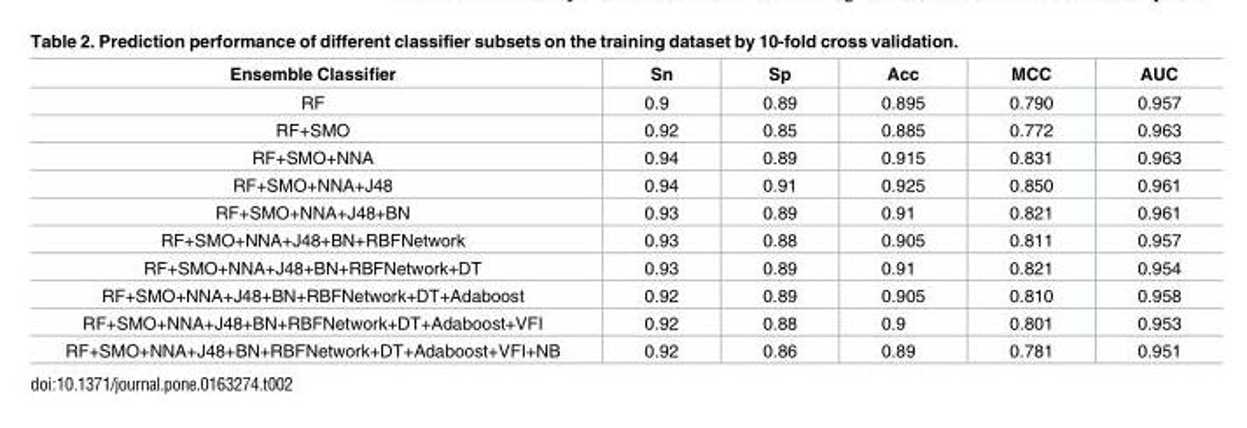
<table><thead><tr><td>Ensemble Classifier</td><td>Sn</td><td>Sp</td><td>Acc</td><td>MCC</td><td>AUC</td></tr></thead><tbody><tr><td>RF</td><td>0.9</td><td>0.89</td><td>0.895</td><td>0.790</td><td>0.957</td></tr><tr><td>RF+SMO</td><td>0.92</td><td>0.85</td><td>0.885</td><td>0.772</td><td>0.963</td></tr><tr><td>RF+SMO+NNA</td><td>0.94</td><td>0.89</td><td>0.915</td><td>0.831</td><td>0.963</td></tr><tr><td>RF+SMO+NNA+J48</td><td>0.94</td><td>0.91</td><td>0.925</td><td>0.850</td><td>0.961</td></tr><tr><td>RF+SMO+NNA+J48+BN</td><td>0.93</td><td>0.89</td><td>0.91</td><td>0.821</td><td>0.961</td></tr><tr><td>RF+SMO+NNA+J48+BN+RBFNetwork</td><td>0.93</td><td>0.88</td><td>0.905</td><td>0.811</td><td>0.957</td></tr><tr><td>RF+SMO+NNA+J48+BN+RBFNetwork+DT</td><td>0.93</td><td>0.89</td><td>0.91</td><td>0.821</td><td>0.954</td></tr><tr><td>RF+SMO+NNA+J48+BN+RBFNetwork+DT+Adaboost</td><td>0.92</td><td>0.89</td><td>0.905</td><td>0.810</td><td>0.958</td></tr><tr><td>RF+SMO+NNA+J48+BN+RBFNetwork+DT+Adaboost+VFI</td><td>0.92</td><td>0.88</td><td>0.9</td><td>0.801</td><td>0.953</td></tr><tr><td>RF+SMO+NNA+J48+BN+RBFNetwork+DT+Adaboost+VFI+NB</td><td>0.92</td><td>0.86</td><td>0.89</td><td>0.781</td><td>0.951</td></tr></tbody></table>